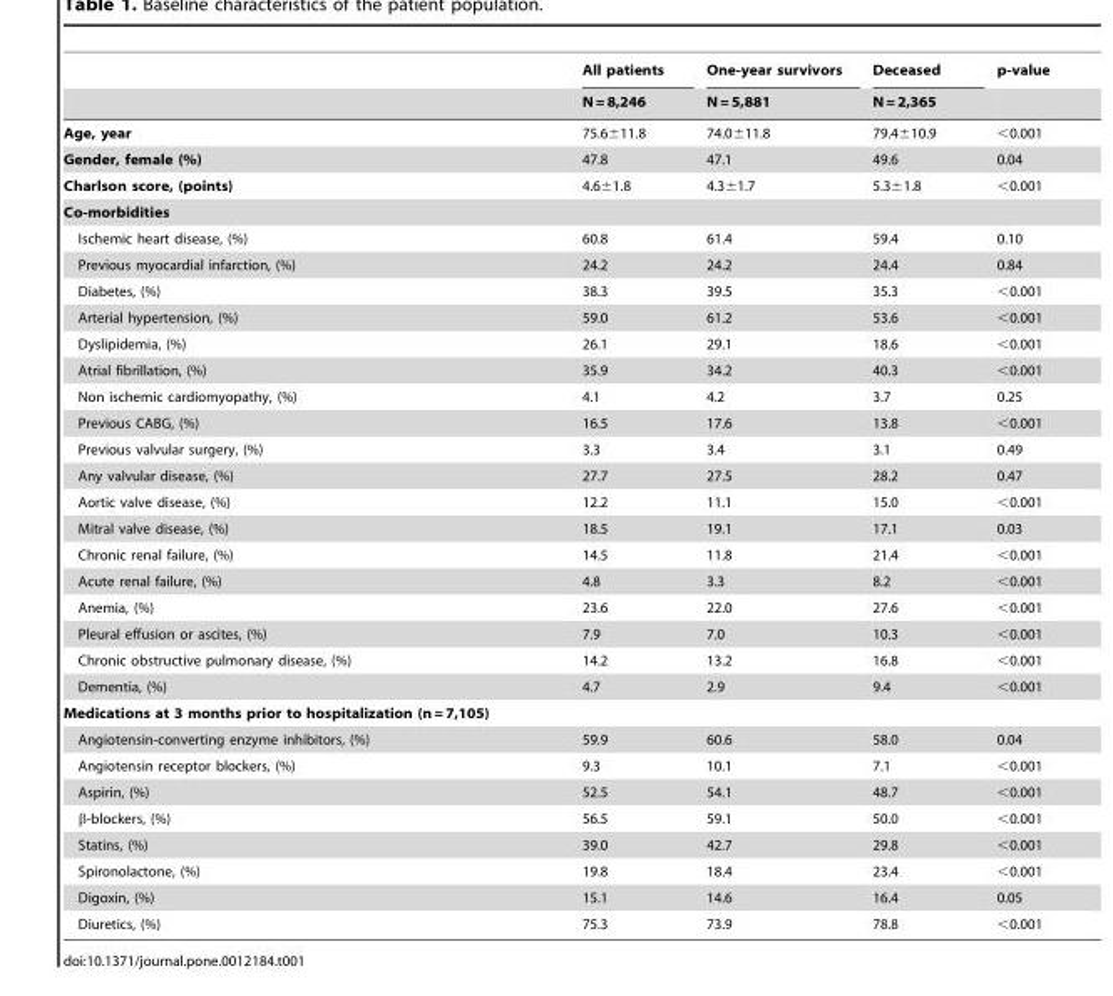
<table><thead><tr><td rowspan="2"></td><td rowspan="2">All patients N = 8,246</td><td rowspan="2">One-year survivors N = 5,881</td><td rowspan="2">Deceased N = 2,365</td><td rowspan="2">p-value</td></tr><tr></tr></thead><tbody><tr><td>Age, year</td><td>75.6±11.8</td><td>74.0±11.8</td><td>79.4±10.9</td><td>&lt;0.001</td></tr><tr><td>Gender, female (%)</td><td>47.8</td><td>47.1</td><td>49.6</td><td>0.04</td></tr><tr><td>Charlson score, (points)</td><td>4.6±1.8</td><td>4.3±1.7</td><td>5.3±1.8</td><td>&lt;0.001</td></tr><tr><td colspan="5">Co-morbidities</td></tr><tr><td>Ischemic heart disease, (%)</td><td>60.8</td><td>61.4</td><td>59.4</td><td>0.10</td></tr><tr><td>Previous myocardial infarction, (%)</td><td>24.2</td><td>24.2</td><td>24.4</td><td>0.84</td></tr><tr><td>Diabetes, (%)</td><td>38.3</td><td>39.5</td><td>35.3</td><td>&lt;0.001</td></tr><tr><td>Arterial hypertension, (%)</td><td>59.0</td><td>61.2</td><td>53.6</td><td>&lt;0.001</td></tr><tr><td>Dyslipidemia, (%)</td><td>26.1</td><td>29.1</td><td>18.6</td><td>&lt;0.001</td></tr><tr><td>Atrial fibrillation, (%)</td><td>35.9</td><td>34.2</td><td>40.3</td><td>&lt;0.001</td></tr><tr><td>Non ischemic cardiomyopathy, (%)</td><td>4.1</td><td>4.2</td><td>3.7</td><td>0.25</td></tr><tr><td>Previous CABG, (%)</td><td>16.5</td><td>17.6</td><td>13.8</td><td>&lt;0.001</td></tr><tr><td>Previous valvular surgery, (%)</td><td>3.3</td><td>3.4</td><td>3.1</td><td>0.49</td></tr><tr><td>Any valvular disease, (%)</td><td>27.7</td><td>27.5</td><td>28.2</td><td>0.47</td></tr><tr><td>Aortic valve disease, (%)</td><td>12.2</td><td>11.1</td><td>15.0</td><td>&lt;0.001</td></tr><tr><td>Mitral valve disease, (%)</td><td>18.5</td><td>19.1</td><td>17.1</td><td>0.03</td></tr><tr><td>Chronic renal failure, (%)</td><td>14.5</td><td>11.8</td><td>21.4</td><td>&lt;0.001</td></tr><tr><td>Acute renal failure, (%)</td><td>4.8</td><td>3.3</td><td>8.2</td><td>&lt;0.001</td></tr><tr><td>Anemia, (%)</td><td>23.6</td><td>22.0</td><td>27.6</td><td>&lt;0.001</td></tr><tr><td>Pleural effusion or ascites, (%)</td><td>7.9</td><td>7.0</td><td>10.3</td><td>&lt;0.001</td></tr><tr><td>Chronic obstructive pulmonary disease, (%)</td><td>14.2</td><td>13.2</td><td>16.8</td><td>&lt;0.001</td></tr><tr><td>Dementia, (%)</td><td>4.7</td><td>2.9</td><td>9.4</td><td>&lt;0.001</td></tr><tr><td colspan="5">Medications at 3 months prior to hospitalization (n = 7,105)</td></tr><tr><td>Angiotensin-converting enzyme inhibitors, (%)</td><td>59.9</td><td>60.6</td><td>58.0</td><td>0.04</td></tr><tr><td>Angiotensin receptor blockers, (%)</td><td>9.3</td><td>10.1</td><td>7.1</td><td>&lt;0.001</td></tr><tr><td>Aspirin, (%)</td><td>52.5</td><td>54.1</td><td>48.7</td><td>&lt;0.001</td></tr><tr><td>β-blockers, (%)</td><td>56.5</td><td>59.1</td><td>50.0</td><td>&lt;0.001</td></tr><tr><td>Statins, (%)</td><td>39.0</td><td>42.7</td><td>29.8</td><td>&lt;0.001</td></tr><tr><td>Spironolactone, (%)</td><td>19.8</td><td>18.4</td><td>23.4</td><td>&lt;0.001</td></tr><tr><td>Digoxin, (%)</td><td>15.1</td><td>14.6</td><td>16.4</td><td>0.05</td></tr><tr><td>Diuretics, (%)</td><td>75.3</td><td>73.9</td><td>78.8</td><td>&lt;0.001</td></tr></tbody></table>